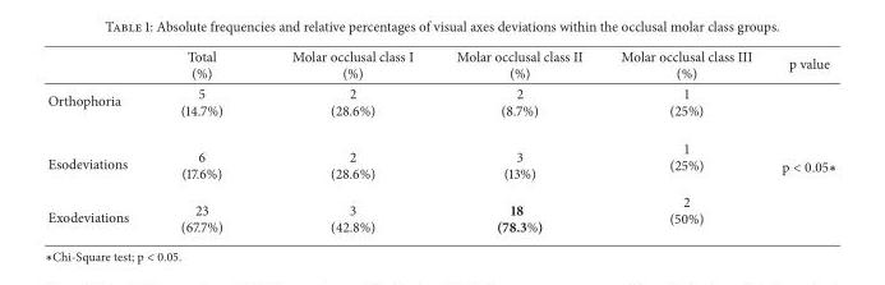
<table><thead><tr><td></td><td>Total (%)</td><td>Molar occlusal class I (%)</td><td>Molar occlusal class II (%)</td><td>Molar occlusal class III (%)</td><td>p value</td></tr></thead><tbody><tr><td>Orthophoria</td><td>5 (14.7%)</td><td>2 (28.6%)</td><td>2 (8.7%)</td><td>1 (25%)</td><td rowspan="3">p &lt; 0.05∗</td></tr><tr><td>Esodeviations</td><td>6 (17.6%)</td><td>2 (28.6%)</td><td>3 (13%)</td><td>1 (25%)</td></tr><tr><td>Exodeviations</td><td>23 (67.7%)</td><td>3 (42.8%)</td><td>18 (78.3%)</td><td>2 (50%)</td></tr></tbody></table>